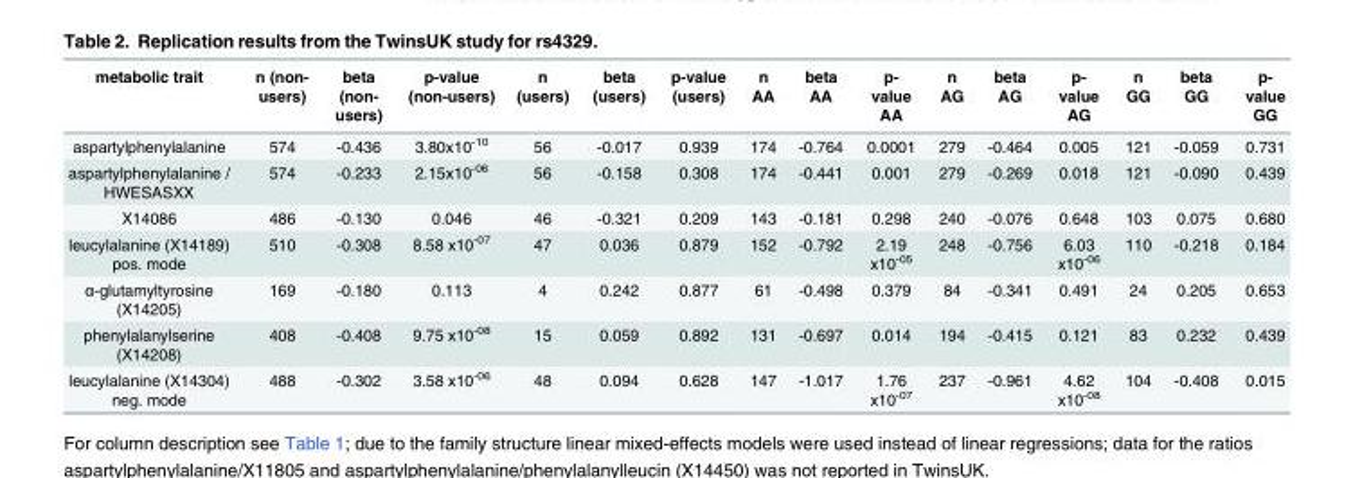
<table><thead><tr><td>metabolic trait</td><td>n (non- users)</td><td>beta (non- users)</td><td>p-value (non-users)</td><td>n (users)</td><td>beta (users)</td><td>p-value (users)</td><td>n AA</td><td>beta AA</td><td>p- value AA</td><td>n AG</td><td>beta AG</td><td>p- value AG</td><td>n GG</td><td>beta GG</td><td>p- value GG</td></tr></thead><tbody><tr><td>aspartylphenylalanine</td><td>574</td><td>-0.436</td><td>3.80x10<sup>-10</sup></td><td>56</td><td>-0.017</td><td>0.939</td><td>174</td><td>-0.764</td><td>0.0001</td><td>279</td><td>-0.464</td><td>0.005</td><td>121</td><td>-0.059</td><td>0.731</td></tr><tr><td>aspartylphenylalanine / HWESASXX</td><td>574</td><td>-0.233</td><td>2.15x10<sup>-06</sup></td><td>56</td><td>-0.158</td><td>0.308</td><td>174</td><td>-0.441</td><td>0.001</td><td>279</td><td>-0.269</td><td>0.018</td><td>121</td><td>-0.090</td><td>0.439</td></tr><tr><td>X14086</td><td>486</td><td>-0.130</td><td>0.046</td><td>46</td><td>-0.321</td><td>0.209</td><td>143</td><td>-0.181</td><td>0.298</td><td>240</td><td>-0.076</td><td>0.648</td><td>103</td><td>0.075</td><td>0.680</td></tr><tr><td>leucylalanine (X14189) pos. mode</td><td>510</td><td>-0.308</td><td>8.58 x10<sup>-07</sup></td><td>47</td><td>0.036</td><td>0.879</td><td>152</td><td>-0.792</td><td>2.19 x10<sup>-05</sup></td><td>248</td><td>-0.756</td><td>6.03 x10<sup>-06</sup></td><td>110</td><td>-0.218</td><td>0.184</td></tr><tr><td>α-glutamyltyrosine (X14205)</td><td>169</td><td>-0.180</td><td>0.113</td><td>4</td><td>0.242</td><td>0.877</td><td>61</td><td>-0.498</td><td>0.379</td><td>84</td><td>-0.341</td><td>0.491</td><td>24</td><td>0.205</td><td>0.653</td></tr><tr><td>phenylalanylserine (X14208)</td><td>408</td><td>-0.408</td><td>9.75 x10<sup>-08</sup></td><td>15</td><td>0.059</td><td>0.892</td><td>131</td><td>-0.697</td><td>0.014</td><td>194</td><td>-0.415</td><td>0.121</td><td>83</td><td>0.232</td><td>0.439</td></tr><tr><td>leucylalanine (X14304) neg. mode</td><td>488</td><td>-0.302</td><td>3.58 x10<sup>-06</sup></td><td>48</td><td>0.094</td><td>0.628</td><td>147</td><td>-1.017</td><td>1.76 x10<sup>-07</sup></td><td>237</td><td>-0.961</td><td>4.62 x10<sup>-08</sup></td><td>104</td><td>-0.408</td><td>0.015</td></tr></tbody></table>